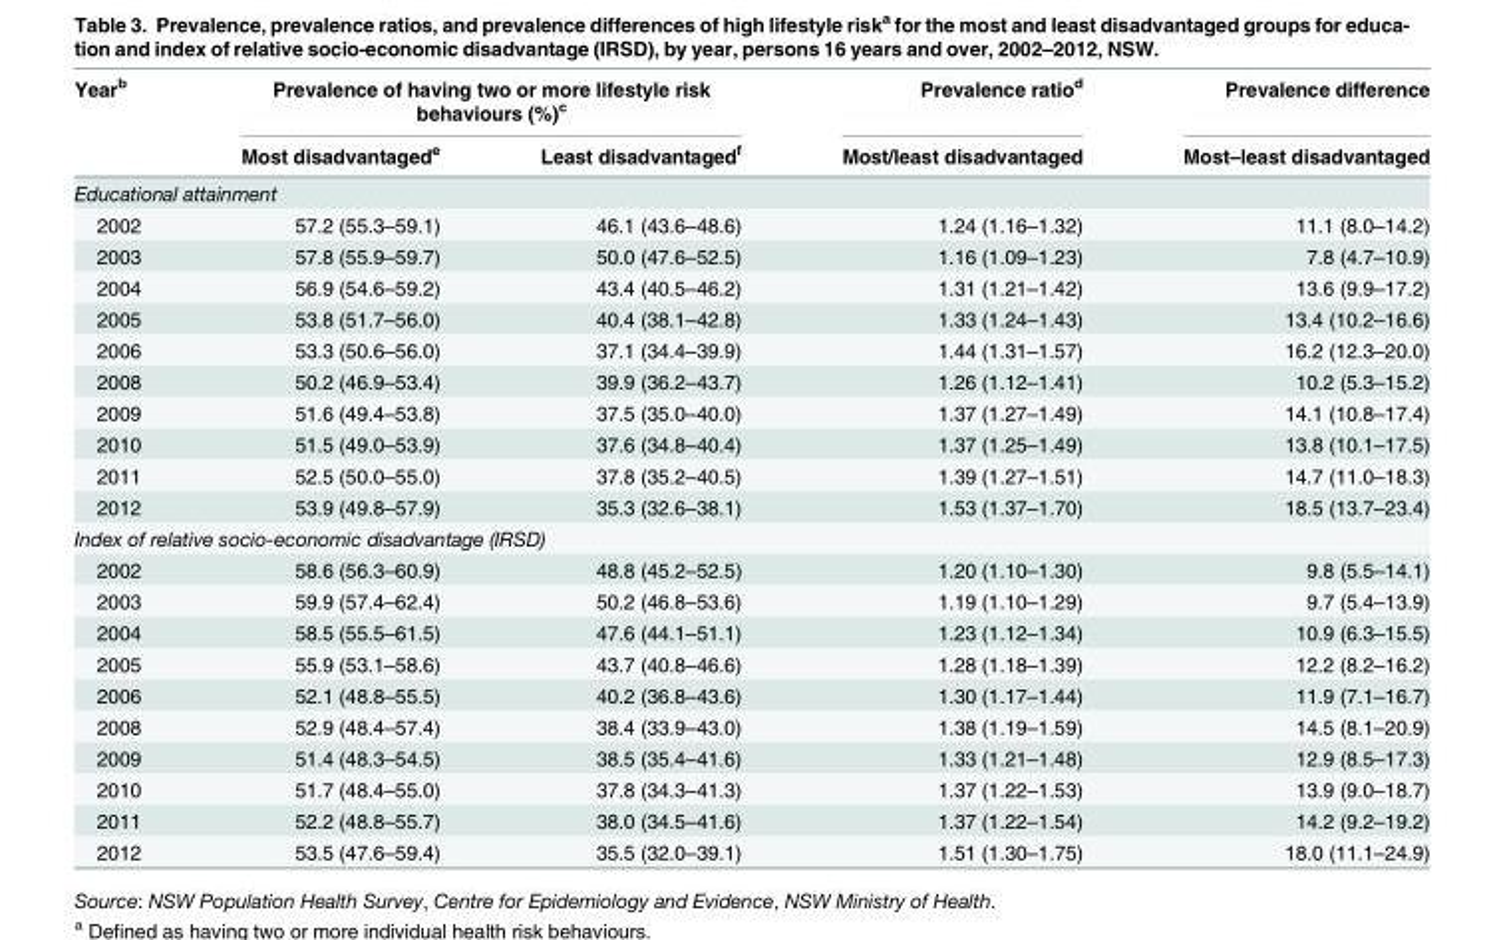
<table><thead><tr><td rowspan="2">Year<sup>b</sup></td><td colspan="2">Prevalence of having two or more lifestyle risk behaviours (%)<sup>c</sup></td><td rowspan="2">Prevalence ratio<sup>d</sup> Most/least disadvantaged</td><td rowspan="2">Prevalence difference Most–least disadvantaged</td></tr><tr><td>Most disadvantaged<sup>e</sup></td><td>Least disadvantaged<sup>f</sup></td></tr></thead><tbody><tr><td colspan="5">Educational attainment</td></tr><tr><td>2002</td><td>57.2 (55.3–59.1)</td><td>46.1 (43.6–48.6)</td><td>1.24 (1.16–1.32)</td><td>11.1 (8.0–14.2)</td></tr><tr><td>2003</td><td>57.8 (55.9–59.7)</td><td>50.0 (47.6–52.5)</td><td>1.16 (1.09–1.23)</td><td>7.8 (4.7–10.9)</td></tr><tr><td>2004</td><td>56.9 (54.6–59.2)</td><td>43.4 (40.5–46.2)</td><td>1.31 (1.21–1.42)</td><td>13.6 (9.9–17.2)</td></tr><tr><td>2005</td><td>53.8 (51.7–56.0)</td><td>40.4 (38.1–42.8)</td><td>1.33 (1.24–1.43)</td><td>13.4 (10.2–16.6)</td></tr><tr><td>2006</td><td>53.3 (50.6–56.0)</td><td>37.1 (34.4–39.9)</td><td>1.44 (1.31–1.57)</td><td>16.2 (12.3–20.0)</td></tr><tr><td>2008</td><td>50.2 (46.9–53.4)</td><td>39.9 (36.2–43.7)</td><td>1.26 (1.12–1.41)</td><td>10.2 (5.3–15.2)</td></tr><tr><td>2009</td><td>51.6 (49.4–53.8)</td><td>37.5 (35.0–40.0)</td><td>1.37 (1.27–1.49)</td><td>14.1 (10.8–17.4)</td></tr><tr><td>2010</td><td>51.5 (49.0–53.9)</td><td>37.6 (34.8–40.4)</td><td>1.37 (1.25–1.49)</td><td>13.8 (10.1–17.5)</td></tr><tr><td>2011</td><td>52.5 (50.0–55.0)</td><td>37.8 (35.2–40.5)</td><td>1.39 (1.27–1.51)</td><td>14.7 (11.0–18.3)</td></tr><tr><td>2012</td><td>53.9 (49.8–57.9)</td><td>35.3 (32.6–38.1)</td><td>1.53 (1.37–1.70)</td><td>18.5 (13.7–23.4)</td></tr><tr><td colspan="5">Index of relative socio-economic disadvantage (IRSD)</td></tr><tr><td>2002</td><td>58.6 (56.3–60.9)</td><td>48.8 (45.2–52.5)</td><td>1.20 (1.10–1.30)</td><td>9.8 (5.5–14.1)</td></tr><tr><td>2003</td><td>59.9 (57.4–62.4)</td><td>50.2 (46.8–53.6)</td><td>1.19 (1.10–1.29)</td><td>9.7 (5.4–13.9)</td></tr><tr><td>2004</td><td>58.5 (55.5–61.5)</td><td>47.6 (44.1–51.1)</td><td>1.23 (1.12–1.34)</td><td>10.9 (6.3–15.5)</td></tr><tr><td>2005</td><td>55.9 (53.1–58.6)</td><td>43.7 (40.8–46.6)</td><td>1.28 (1.18–1.39)</td><td>12.2 (8.2–16.2)</td></tr><tr><td>2006</td><td>52.1 (48.8–55.5)</td><td>40.2 (36.8–43.6)</td><td>1.30 (1.17–1.44)</td><td>11.9 (7.1–16.7)</td></tr><tr><td>2008</td><td>52.9 (48.4–57.4)</td><td>38.4 (33.9–43.0)</td><td>1.38 (1.19–1.59)</td><td>14.5 (8.1–20.9)</td></tr><tr><td>2009</td><td>51.4 (48.3–54.5)</td><td>38.5 (35.4–41.6)</td><td>1.33 (1.21–1.48)</td><td>12.9 (8.5–17.3)</td></tr><tr><td>2010</td><td>51.7 (48.4–55.0)</td><td>37.8 (34.3–41.3)</td><td>1.37 (1.22–1.53)</td><td>13.9 (9.0–18.7)</td></tr><tr><td>2011</td><td>52.2 (48.8–55.7)</td><td>38.0 (34.5–41.6)</td><td>1.37 (1.22–1.54)</td><td>14.2 (9.2–19.2)</td></tr><tr><td>2012</td><td>53.5 (47.6–59.4)</td><td>35.5 (32.0–39.1)</td><td>1.51 (1.30–1.75)</td><td>18.0 (11.1–24.9)</td></tr></tbody></table>